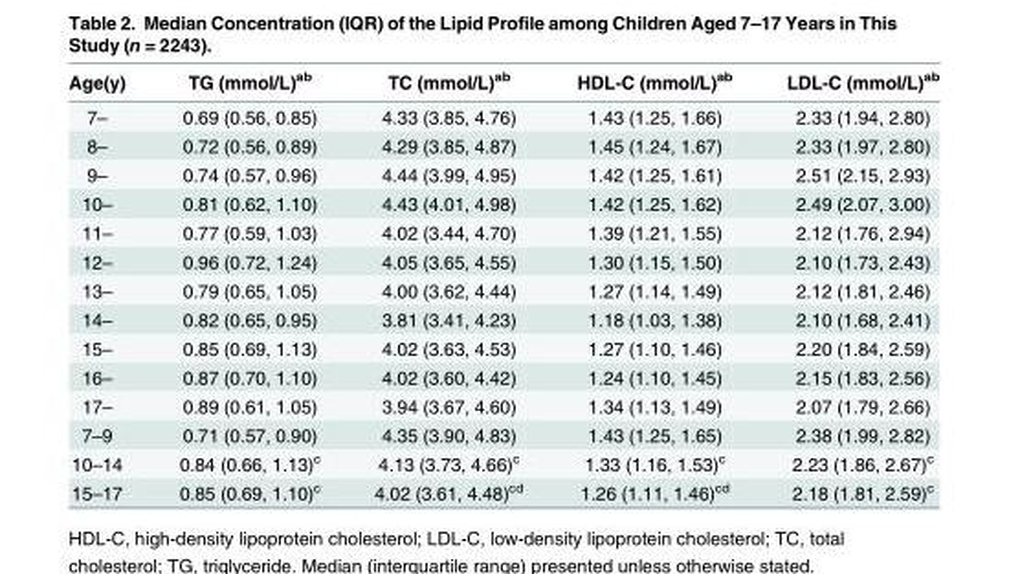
<table><thead><tr><td>Age(y)</td><td>TG (mmol/L)<sup>ab</sup></td><td>TC (mmol/L)<sup>ab</sup></td><td>HDL-C (mmol/L)<sup>ab</sup></td><td>LDL-C (mmol/L)<sup>ab</sup></td></tr></thead><tbody><tr><td>7–</td><td>0.69 (0.56, 0.85)</td><td>4.33 (3.85, 4.76)</td><td>1.43 (1.25, 1.66)</td><td>2.33 (1.94, 2.80)</td></tr><tr><td>8–</td><td>0.72 (0.56, 0.89)</td><td>4.29 (3.85, 4.87)</td><td>1.45 (1.24, 1.67)</td><td>2.33 (1.97, 2.80)</td></tr><tr><td>9–</td><td>0.74 (0.57, 0.96)</td><td>4.44 (3.99, 4.95)</td><td>1.42 (1.25, 1.61)</td><td>2.51 (2.15, 2.93)</td></tr><tr><td>10–</td><td>0.81 (0.62, 1.10)</td><td>4.43 (4.01, 4.98)</td><td>1.42 (1.25, 1.62)</td><td>2.49 (2.07, 3.00)</td></tr><tr><td>11–</td><td>0.77 (0.59, 1.03)</td><td>4.02 (3.44, 4.70)</td><td>1.39 (1.21, 1.55)</td><td>2.12 (1.76, 2.94)</td></tr><tr><td>12–</td><td>0.96 (0.72, 1.24)</td><td>4.05 (3.65, 4.55)</td><td>1.30 (1.15, 1.50)</td><td>2.10 (1.73, 2.43)</td></tr><tr><td>13–</td><td>0.79 (0.65, 1.05)</td><td>4.00 (3.62, 4.44)</td><td>1.27 (1.14, 1.49)</td><td>2.12 (1.81, 2.46)</td></tr><tr><td>14–</td><td>0.82 (0.65, 0.95)</td><td>3.81 (3.41, 4.23)</td><td>1.18 (1.03, 1.38)</td><td>2.10 (1.68, 2.41)</td></tr><tr><td>15–</td><td>0.85 (0.69, 1.13)</td><td>4.02 (3.63, 4.53)</td><td>1.27 (1.10, 1.46)</td><td>2.20 (1.84, 2.59)</td></tr><tr><td>16–</td><td>0.87 (0.70, 1.10)</td><td>4.02 (3.60, 4.42)</td><td>1.24 (1.10, 1.45)</td><td>2.15 (1.83, 2.56)</td></tr><tr><td>17–</td><td>0.89 (0.61, 1.05)</td><td>3.94 (3.67, 4.60)</td><td>1.34 (1.13, 1.49)</td><td>2.07 (1.79, 2.66)</td></tr><tr><td>7–9</td><td>0.71 (0.57, 0.90)</td><td>4.35 (3.90, 4.83)</td><td>1.43 (1.25, 1.65)</td><td>2.38 (1.99, 2.82)</td></tr><tr><td>10–14</td><td>0.84 (0.66, 1.13)<sup>c</sup></td><td>4.13 (3.73, 4.66)<sup>c</sup></td><td>1.33 (1.16, 1.53)<sup>c</sup></td><td>2.23 (1.86, 2.67)<sup>c</sup></td></tr><tr><td>15–17</td><td>0.85 (0.69, 1.10)<sup>c</sup></td><td>4.02 (3.61, 4.48)<sup>cd</sup></td><td>1.26 (1.11, 1.46)<sup>cd</sup></td><td>2.18 (1.81, 2.59)<sup>c</sup></td></tr></tbody></table>